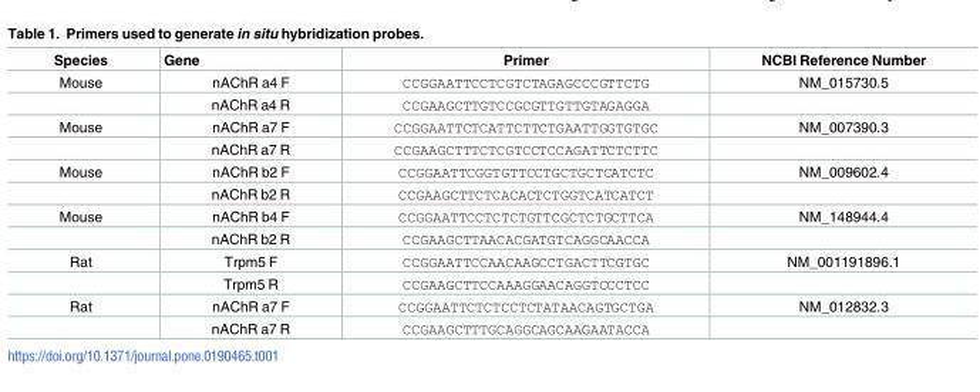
<table><thead><tr><td>Species</td><td>Gene</td><td>Primer</td><td>NCBI Reference Number</td></tr></thead><tbody><tr><td rowspan="2">Mouse</td><td>nAChR a4 F</td><td>CCGGAATTCCTCGTCTAGAGCCCGTTCTG</td><td>NM_015730.5</td></tr><tr><td>nAChR a4 R</td><td>CCGAAGCTTGTCCGCGTTGTTGTAGAGGA</td><td></td></tr><tr><td rowspan="2">Mouse</td><td>nAChR a7 F</td><td>CCGGAATTCTCATTCTTCTGAATTGGTGTGC</td><td>NM_007390.3</td></tr><tr><td>nAChR a7 R</td><td>CCGAAGCTTTCTCGTCCTCCAGATTCTCTTC</td><td></td></tr><tr><td rowspan="2">Mouse</td><td>nAChR b2 F</td><td>CCGGAATTCGGTGTTCCTGCTGCTCATCTC</td><td>NM_009602.4</td></tr><tr><td>nAChR b2 R</td><td>CCGAAGCTTCTCACACTCTGGTCATCATCT</td><td></td></tr><tr><td rowspan="2">Mouse</td><td>nAChR b4 F</td><td>CCGGAATTCCTCTCTGTTCGCTCTGCTTCA</td><td>NM_148944.4</td></tr><tr><td>nAChR b2 R</td><td>CCGAAGCTTAACACGATGTCAGGCAACCA</td><td></td></tr><tr><td rowspan="2">Rat</td><td>Trpm5 F</td><td>CCGGAATTCCAACAAGCCTGACTTCGTGC</td><td>NM_001191896.1</td></tr><tr><td>Trpm5 R</td><td>CCGAAGCTTCCAAAGGAACAGGTCCCTCC</td><td></td></tr><tr><td rowspan="2">Rat</td><td>nAChR a7 F</td><td>CCGGAATTCTCTCCTCTATAACAGTGCTGA</td><td>NM_012832.3</td></tr><tr><td>nAChR a7 R</td><td>CCGAAGCTTTGCAGGCAGCAAGAATACCA</td><td></td></tr></tbody></table>